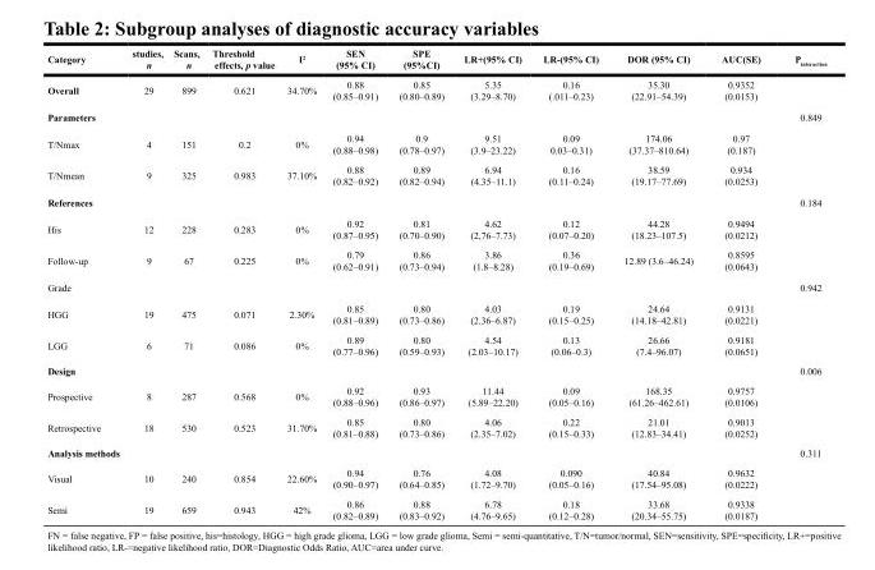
<table><thead><tr><td>Category</td><td>studies, n</td><td>Scans, n</td><td>Threshold effects, p value</td><td>I<sup>2</sup></td><td>SEN (95% CI)</td><td>SPE (95%CI)</td><td>LR+(95% CI)</td><td>LR-(95% CI)</td><td>DOR (95% CI)</td><td>AUC(SE)</td><td>P<sub>interaction</sub></td></tr></thead><tbody><tr><td>Overall</td><td>29</td><td>899</td><td>0.621</td><td>34.70%</td><td>0.88 (0.85–0.91)</td><td>0.85 (0.80–0.89)</td><td>5.35 (3.29–8.70)</td><td>0.16 (.011–0.23)</td><td>35.30 (22.91–54.39)</td><td>0.9352 (0.0153)</td><td></td></tr><tr><td>Parameters</td><td></td><td></td><td></td><td></td><td></td><td></td><td></td><td></td><td></td><td></td><td>0.849</td></tr><tr><td>T/Nmax</td><td>4</td><td>151</td><td>0.2</td><td>0%</td><td>0.94 (0.88–0.98)</td><td>0.9 (0.78–0.97)</td><td>9.51 (3.9–23.22)</td><td>0.09 0.03–0.31)</td><td>174.06 (37.37–810.64)</td><td>0.97 (0.187)</td><td></td></tr><tr><td>T/Nmean</td><td>9</td><td>325</td><td>0.983</td><td>37.10%</td><td>0.88 (0.82–0.92)</td><td>0.89 (0.82–0.94)</td><td>6.94 (4.35–11.1)</td><td>0.16 (0.11–0.24)</td><td>38.59 (19.17–77.69)</td><td>0.934 (0.0253)</td><td></td></tr><tr><td>References</td><td></td><td></td><td></td><td></td><td></td><td></td><td></td><td></td><td></td><td></td><td>0.184</td></tr><tr><td>His</td><td>12</td><td>228</td><td>0.283</td><td>0%</td><td>0.92 (0.87–0.95)</td><td>0.81 (0.70–0.90)</td><td>4.62 (2,76–7.73)</td><td>0.12 (0.07–0.20)</td><td>44.28 (18.23–107.5)</td><td>0.9494 (0.0212)</td><td></td></tr><tr><td>Follow-up</td><td>9</td><td>67</td><td>0.225</td><td>0%</td><td>0.79 (0.62–0.91)</td><td>0.86 (0.73–0.94)</td><td>3.86 (1.8–8.28)</td><td>0.36 (0.19–0.69)</td><td>12.89 (3.6–46.24)</td><td>0.8595 (0.0643)</td><td></td></tr><tr><td>Grade</td><td></td><td></td><td></td><td></td><td></td><td></td><td></td><td></td><td></td><td></td><td>0.942</td></tr><tr><td>HGG</td><td>19</td><td>475</td><td>0.071</td><td>2.30%</td><td>0.85 (0.81–0.89)</td><td>0.80 (0.73–0.86)</td><td>4.03 (2.36–6.87)</td><td>0.19 (0.15–0.25)</td><td>24.64 (14.18–42.81)</td><td>0.9131 (0.0221)</td><td></td></tr><tr><td>LGG</td><td>6</td><td>71</td><td>0.086</td><td>0%</td><td>0.89 (0.77–0.96)</td><td>0.80 (0.59–0.93)</td><td>4.54 (2.03–10.17)</td><td>0.13 (0.06–0.3)</td><td>26.66 (7.4–96.07)</td><td>0.9181 (0.0651)</td><td></td></tr><tr><td>Design</td><td></td><td></td><td></td><td></td><td></td><td></td><td></td><td></td><td></td><td></td><td>0.006</td></tr><tr><td>Prospective</td><td>8</td><td>287</td><td>0.568</td><td>0%</td><td>0.92 (0.88–0.96)</td><td>0.93 (0.86–0.97)</td><td>11.44 (5.89–22.20)</td><td>0.09 (0.05–0.16)</td><td>168.35 (61.26–462.61)</td><td>0.9757 (0.0106)</td><td></td></tr><tr><td>Retrospective</td><td>18</td><td>530</td><td>0.523</td><td>31.70%</td><td>0.85 (0.81–0.88)</td><td>0.80 (0.73–0.86)</td><td>4.06 (2.35–7.02)</td><td>0.22 (0.15–0.33)</td><td>21.01 (12.83–34.41)</td><td>0.9013 (0.0252)</td><td></td></tr><tr><td>Analysis methods</td><td></td><td></td><td></td><td></td><td></td><td></td><td></td><td></td><td></td><td></td><td>0.311</td></tr><tr><td>Visual</td><td>10</td><td>240</td><td>0.854</td><td>22.60%</td><td>0.94 (0.90–0.97)</td><td>0.76 (0.64–0.85)</td><td>4.08 (1.72–9.70)</td><td>0.090 (0.05–0.16)</td><td>40.84 (17.54–95.08)</td><td>0.9632 (0.0222)</td><td></td></tr><tr><td>Semi</td><td>19</td><td>659</td><td>0.943</td><td>42%</td><td>0.86 (0.82–0.89)</td><td>0.88 (0.83–0.92)</td><td>6.78 (4.76–9.65)</td><td>0.18 (0.12–0.28)</td><td>33.68 (20.34–55.75)</td><td>0.9338 (0.0187)</td><td></td></tr></tbody></table>